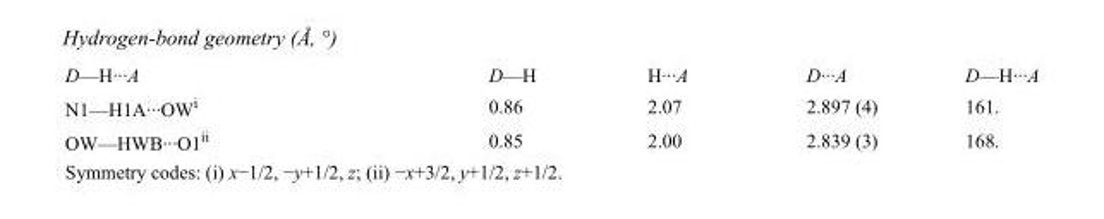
<table><tbody><tr><td>D—H···A</td><td>D—H</td><td>H···A</td><td>D···A</td><td>D—H···A</td></tr><tr><td>N1—H1A···OW<sup>i</sup></td><td>0.86</td><td>2.07</td><td>2.897 (4)</td><td>161.</td></tr><tr><td>OW—HWB···O1<sup>ii</sup></td><td>0.85</td><td>2.00</td><td>2.839 (3)</td><td>168.</td></tr></tbody></table>